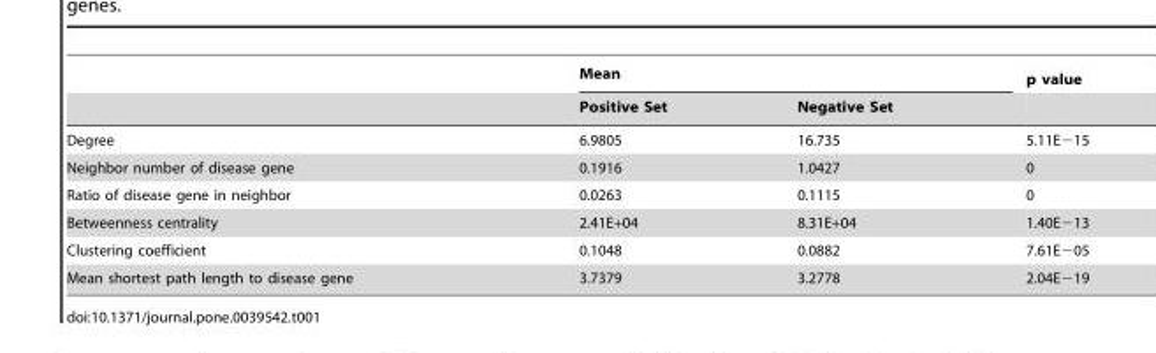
<table><thead><tr><td rowspan="2"></td><td colspan="2">Mean</td><td rowspan="2">p value</td></tr><tr><td>Positive Set</td><td>Negative Set</td></tr></thead><tbody><tr><td>Degree</td><td>6.9805</td><td>16.735</td><td>5.11E−15</td></tr><tr><td>Neighbor number of disease gene</td><td>0.1916</td><td>1.0427</td><td>0</td></tr><tr><td>Ratio of disease gene in neighbor</td><td>0.0263</td><td>0.1115</td><td>0</td></tr><tr><td>Betweenness centrality</td><td>2.41E+04</td><td>8.31E+04</td><td>1.40E−13</td></tr><tr><td>Clustering coefficient</td><td>0.1048</td><td>0.0882</td><td>7.61E−05</td></tr><tr><td>Mean shortest path length to disease gene</td><td>3.7379</td><td>3.2778</td><td>2.04E−19</td></tr></tbody></table>